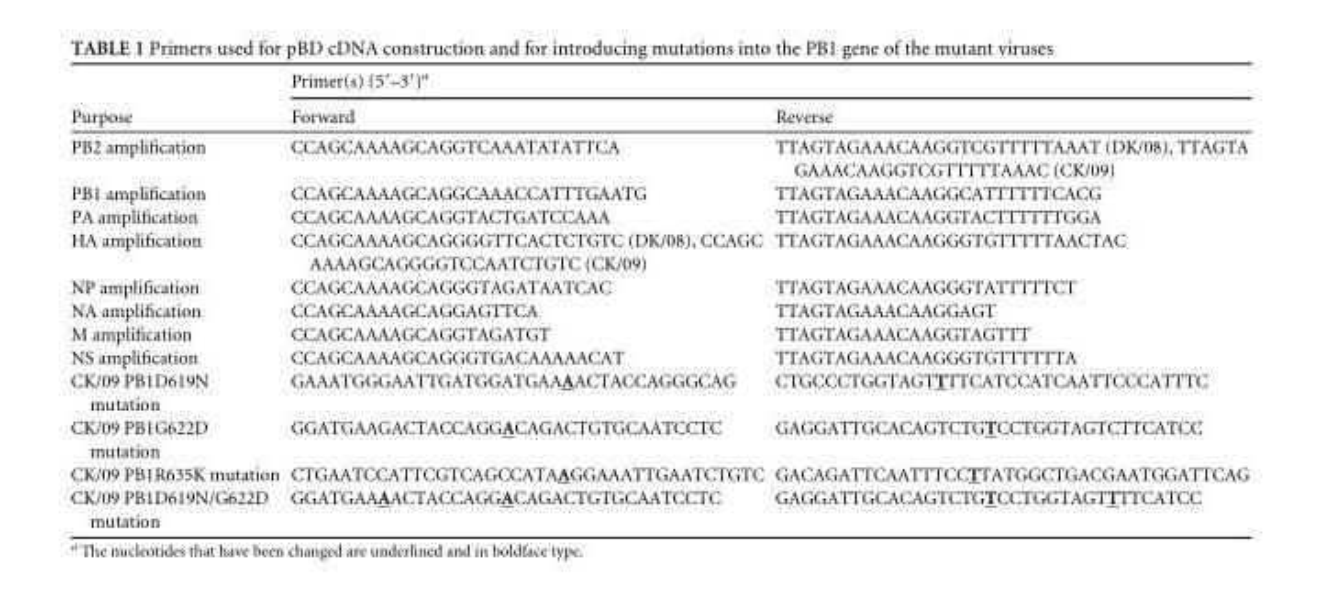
<table><thead><tr><td rowspan="2">Purpose</td><td colspan="2">Primer(s) (5=–3=)a</td></tr><tr><td>Forward</td><td>Reverse</td></tr></thead><tbody><tr><td>PB2 amplification</td><td>CCAGCAAAAGCAGGTCAAATATATTCA</td><td>TTAGTAGAAACAAGGTCGTTTTTAAAT (DK/08), TTAGTA GAAACAAGGTCGTTTTTAAAC (CK/09)</td></tr><tr><td>PB1 amplification</td><td>CCAGCAAAAGCAGGCAAACCATTTGAATG</td><td>TTAGTAGAAACAAGGCATTTTTTCACG</td></tr><tr><td>PA amplification</td><td>CCAGCAAAAGCAGGTACTGATCCAAA</td><td>TTAGTAGAAACAAGGTACTTTTTTGGA</td></tr><tr><td>HA amplification</td><td>CCAGCAAAAGCAGGGGTTCACTCTGTC (DK/08), CCAGC AAAAGCAGGGGTCCAATCTGTC (CK/09)</td><td>TTAGTAGAAACAAGGGTGTTTTTAACTAC</td></tr><tr><td>NP amplification</td><td>CCAGCAAAAGCAGGGTAGATAATCAC</td><td>TTAGTAGAAACAAGGGTATTTTTCT</td></tr><tr><td>NA amplification</td><td>CCAGCAAAAGCAGGAGTTCA</td><td>TTAGTAGAAACAAGGAGT</td></tr><tr><td>M amplification</td><td>CCAGCAAAAGCAGGTAGATGT</td><td>TTAGTAGAAACAAGGTAGTTT</td></tr><tr><td>NS amplification</td><td>CCAGCAAAAGCAGGGTGACAAAAACAT</td><td>TTAGTAGAAACAAGGGTGTTTTTTA</td></tr><tr><td>CK/09 PB1D619N mutation</td><td>GAAATGGGAATTGATGGATGAAAACTACCAGGGCAG</td><td>CTGCCCTGGTAGTTTTCATCCATCAATTCCCATTTC</td></tr><tr><td>CK/09 PB1G622D mutation</td><td>GGATGAAGACTACCAGGACAGACTGTGCAATCCTC</td><td>GAGGATTGCACAGTCTGTCCTGGTAGTCTTCATCC</td></tr><tr><td>CK/09 PB1R635K mutation</td><td>CTGAATCCATTCGTCAGCCATAAGGAAATTGAATCTGTC</td><td>GACAGATTCAATTTCCTTATGGCTGACGAATGGATTCAG</td></tr><tr><td>CK/09 PB1D619N/G622D mutation</td><td>GGATGAAAACTACCAGGACAGACTGTGCAATCCTC</td><td>GAGGATTGCACAGTCTGTCCTGGTAGTTTTCATCC</td></tr></tbody></table>